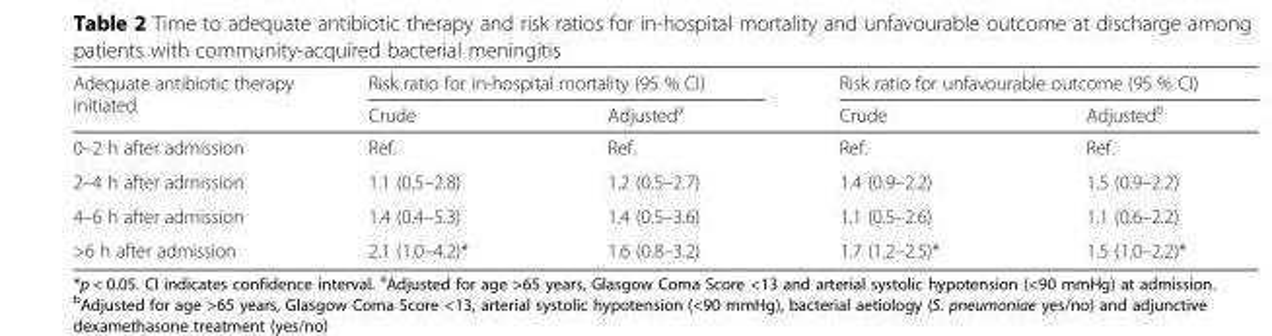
<table><thead><tr><td rowspan="2">Adequate antibiotic therapy initiated</td><td colspan="2">Risk ratio for in-hospital mortality (95 % CI)</td><td colspan="2">Risk ratio for unfavourable outcome (95 % CI)</td></tr><tr><td>Crude</td><td>Adjusted<sup>a</sup></td><td>Crude</td><td>Adjusted<sup>b</sup></td></tr></thead><tbody><tr><td>0–2 h after admission</td><td>Ref.</td><td>Ref.</td><td>Ref.</td><td>Ref.</td></tr><tr><td>2–4 h after admission</td><td>1.1 (0.5–2.8)</td><td>1.2 (0.5–2.7)</td><td>1.4 (0.9–2.2)</td><td>1.5 (0.9–2.2)</td></tr><tr><td>4–6 h after admission</td><td>1.4 (0.4–5.3)</td><td>1.4 (0.5–3.6)</td><td>1.1 (0.5–2.6)</td><td>1.1 (0.6–2.2)</td></tr><tr><td>&gt;6 h after admission</td><td>2.1 (1.0–4.2)*</td><td>1.6 (0.8–3.2)</td><td>1.7 (1.2–2.5)*</td><td>1.5 (1.0–2.2)*</td></tr></tbody></table>